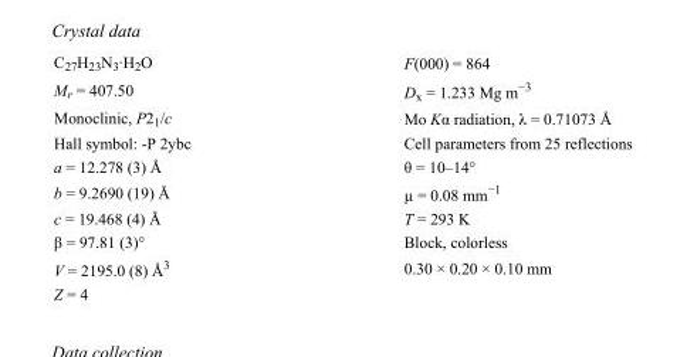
<table><tbody><tr><td>C<sub>27</sub>H<sub>23</sub>N<sub>3</sub>·H<sub>2</sub>O</td><td>F(000) = 864</td></tr><tr><td>M<sub>r</sub> = 407.50</td><td>D<sub>x</sub> = 1.233 Mg m<sup>−3</sup></td></tr><tr><td>Monoclinic, P2<sub>1</sub>/c</td><td>Mo Kα radiation, λ = 0.71073 Å</td></tr><tr><td>Hall symbol: -P 2ybc</td><td>Cell parameters from 25 reflections</td></tr><tr><td>a = 12.278 (3) Å</td><td>θ = 10–14°</td></tr><tr><td>b = 9.2690 (19) Å</td><td>µ = 0.08 mm<sup>−1</sup></td></tr><tr><td>c = 19.468 (4) Å</td><td>T = 293 K</td></tr><tr><td>β = 97.81 (3)°</td><td>Block, colorless</td></tr><tr><td>V = 2195.0 (8) Å<sup>3</sup></td><td>0.30 × 0.20 × 0.10 mm</td></tr><tr><td>Z = 4</td><td></td></tr></tbody></table>